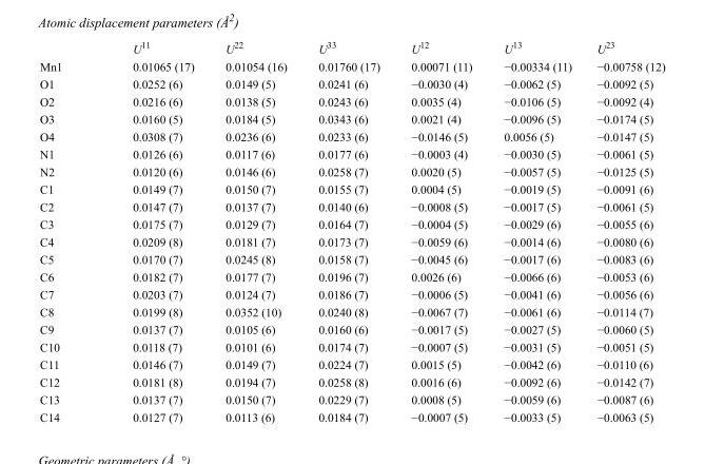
<table><thead><tr><td></td><td>U<sup>11</sup></td><td>U<sup>22</sup></td><td>U<sup>33</sup></td><td>U<sup>12</sup></td><td>U<sup>13</sup></td><td>U<sup>23</sup></td></tr></thead><tbody><tr><td>Mn1</td><td>0.01065 (17)</td><td>0.01054 (16)</td><td>0.01760 (17)</td><td>0.00071 (11)</td><td>−0.00334 (11)</td><td>−0.00758 (12)</td></tr><tr><td>O1</td><td>0.0252 (6)</td><td>0.0149 (5)</td><td>0.0241 (6)</td><td>−0.0030 (4)</td><td>−0.0062 (5)</td><td>−0.0092 (5)</td></tr><tr><td>O2</td><td>0.0216 (6)</td><td>0.0138 (5)</td><td>0.0243 (6)</td><td>0.0035 (4)</td><td>−0.0106 (5)</td><td>−0.0092 (4)</td></tr><tr><td>O3</td><td>0.0160 (5)</td><td>0.0184 (5)</td><td>0.0343 (6)</td><td>0.0021 (4)</td><td>−0.0096 (5)</td><td>−0.0174 (5)</td></tr><tr><td>O4</td><td>0.0308 (7)</td><td>0.0236 (6)</td><td>0.0233 (6)</td><td>−0.0146 (5)</td><td>0.0056 (5)</td><td>−0.0147 (5)</td></tr><tr><td>N1</td><td>0.0126 (6)</td><td>0.0117 (6)</td><td>0.0177 (6)</td><td>−0.0003 (4)</td><td>−0.0030 (5)</td><td>−0.0061 (5)</td></tr><tr><td>N2</td><td>0.0120 (6)</td><td>0.0146 (6)</td><td>0.0258 (7)</td><td>0.0020 (5)</td><td>−0.0057 (5)</td><td>−0.0125 (5)</td></tr><tr><td>C1</td><td>0.0149 (7)</td><td>0.0150 (7)</td><td>0.0155 (7)</td><td>0.0004 (5)</td><td>−0.0019 (5)</td><td>−0.0091 (6)</td></tr><tr><td>C2</td><td>0.0147 (7)</td><td>0.0137 (7)</td><td>0.0140 (6)</td><td>−0.0008 (5)</td><td>−0.0017 (5)</td><td>−0.0061 (5)</td></tr><tr><td>C3</td><td>0.0175 (7)</td><td>0.0129 (7)</td><td>0.0164 (7)</td><td>−0.0004 (5)</td><td>−0.0029 (6)</td><td>−0.0055 (6)</td></tr><tr><td>C4</td><td>0.0209 (8)</td><td>0.0181 (7)</td><td>0.0173 (7)</td><td>−0.0059 (6)</td><td>−0.0014 (6)</td><td>−0.0080 (6)</td></tr><tr><td>C5</td><td>0.0170 (7)</td><td>0.0245 (8)</td><td>0.0158 (7)</td><td>−0.0045 (6)</td><td>−0.0017 (6)</td><td>−0.0083 (6)</td></tr><tr><td>C6</td><td>0.0182 (7)</td><td>0.0177 (7)</td><td>0.0196 (7)</td><td>0.0026 (6)</td><td>−0.0066 (6)</td><td>−0.0053 (6)</td></tr><tr><td>C7</td><td>0.0203 (7)</td><td>0.0124 (7)</td><td>0.0186 (7)</td><td>−0.0006 (5)</td><td>−0.0041 (6)</td><td>−0.0056 (6)</td></tr><tr><td>C8</td><td>0.0199 (8)</td><td>0.0352 (10)</td><td>0.0240 (8)</td><td>−0.0067 (7)</td><td>−0.0061 (6)</td><td>−0.0114 (7)</td></tr><tr><td>C9</td><td>0.0137 (7)</td><td>0.0105 (6)</td><td>0.0160 (6)</td><td>−0.0017 (5)</td><td>−0.0027 (5)</td><td>−0.0060 (5)</td></tr><tr><td>C10</td><td>0.0118 (7)</td><td>0.0101 (6)</td><td>0.0174 (7)</td><td>−0.0007 (5)</td><td>−0.0031 (5)</td><td>−0.0051 (5)</td></tr><tr><td>C11</td><td>0.0146 (7)</td><td>0.0149 (7)</td><td>0.0224 (7)</td><td>0.0015 (5)</td><td>−0.0042 (6)</td><td>−0.0110 (6)</td></tr><tr><td>C12</td><td>0.0181 (8)</td><td>0.0194 (7)</td><td>0.0258 (8)</td><td>0.0016 (6)</td><td>−0.0092 (6)</td><td>−0.0142 (7)</td></tr><tr><td>C13</td><td>0.0137 (7)</td><td>0.0150 (7)</td><td>0.0229 (7)</td><td>0.0008 (5)</td><td>−0.0059 (6)</td><td>−0.0087 (6)</td></tr><tr><td>C14</td><td>0.0127 (7)</td><td>0.0113 (6)</td><td>0.0184 (7)</td><td>−0.0007 (5)</td><td>−0.0033 (5)</td><td>−0.0063 (5)</td></tr></tbody></table>